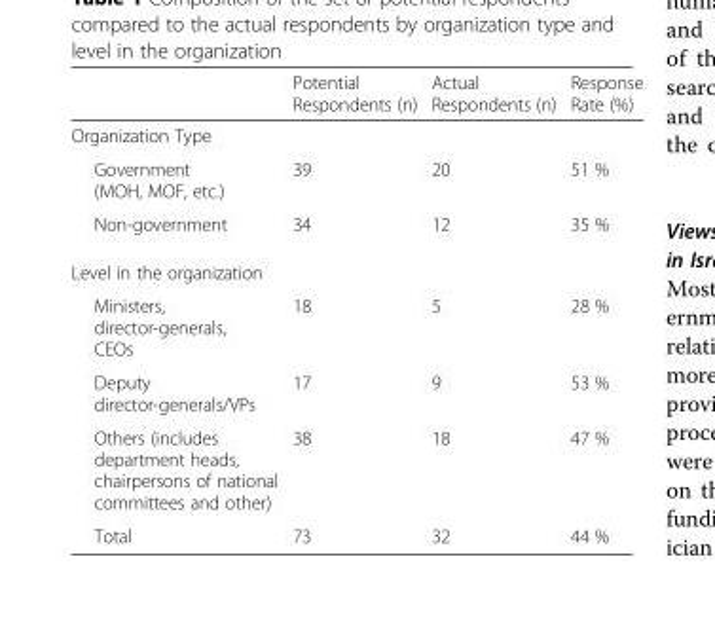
<table><thead><tr><td></td><td>Potential Respondents (n)</td><td>Actual Respondents (n)</td><td>Response Rate (%)</td></tr></thead><tbody><tr><td colspan="4">Organization Type</td></tr><tr><td>Government (MOH, MOF, etc.)</td><td>39</td><td>20</td><td>51 %</td></tr><tr><td>Non-government</td><td>34</td><td>12</td><td>35 %</td></tr><tr><td colspan="4">Level in the organization</td></tr><tr><td>Ministers, director-generals, CEOs</td><td>18</td><td>5</td><td>28 %</td></tr><tr><td>Deputy director-generals/VPs</td><td>17</td><td>9</td><td>53 %</td></tr><tr><td>Others (includes department heads, chairpersons of national committees and other)</td><td>38</td><td>18</td><td>47 %</td></tr><tr><td>Total</td><td>73</td><td>32</td><td>44 %</td></tr></tbody></table>